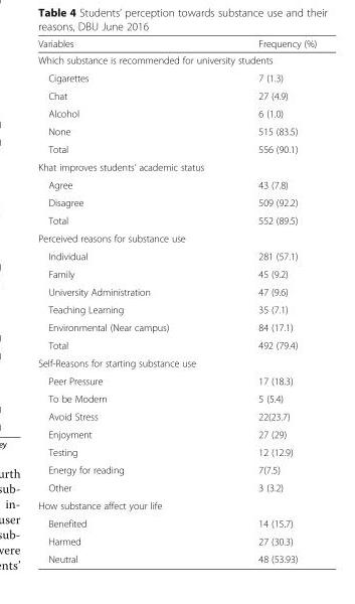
<table><thead><tr><td>Variables</td><td>Frequency (%)</td></tr></thead><tbody><tr><td colspan="2">Which substance is recommended for university students</td></tr><tr><td>Cigarettes</td><td>7 (1.3)</td></tr><tr><td>Chat</td><td>27 (4.9)</td></tr><tr><td>Alcohol</td><td>6 (1.0)</td></tr><tr><td>None</td><td>515 (83.5)</td></tr><tr><td>Total</td><td>556 (90.1)</td></tr><tr><td colspan="2">Khat improves students’ academic status</td></tr><tr><td>Agree</td><td>43 (7.8)</td></tr><tr><td>Disagree</td><td>509 (92.2)</td></tr><tr><td>Total</td><td>552 (89.5)</td></tr><tr><td colspan="2">Perceived reasons for substance use</td></tr><tr><td>Individual</td><td>281 (57.1)</td></tr><tr><td>Family</td><td>45 (9.2)</td></tr><tr><td>University Administration</td><td>47 (9.6)</td></tr><tr><td>Teaching Learning</td><td>35 (7.1)</td></tr><tr><td>Environmental (Near campus)</td><td>84 (17.1)</td></tr><tr><td>Total</td><td>492 (79.4)</td></tr><tr><td colspan="2">Self-Reasons for starting substance use</td></tr><tr><td>Peer Pressure</td><td>17 (18.3)</td></tr><tr><td>To be Modern</td><td>5 (5.4)</td></tr><tr><td>Avoid Stress</td><td>22(23.7)</td></tr><tr><td>Enjoyment</td><td>27 (29)</td></tr><tr><td>Testing</td><td>12 (12.9)</td></tr><tr><td>Energy for reading</td><td>7(7.5)</td></tr><tr><td>Other</td><td>3 (3.2)</td></tr><tr><td colspan="2">How substance affect your life</td></tr><tr><td>Benefited</td><td>14 (15.7)</td></tr><tr><td>Harmed</td><td>27 (30.3)</td></tr><tr><td>Neutral</td><td>48 (53.93)</td></tr></tbody></table>